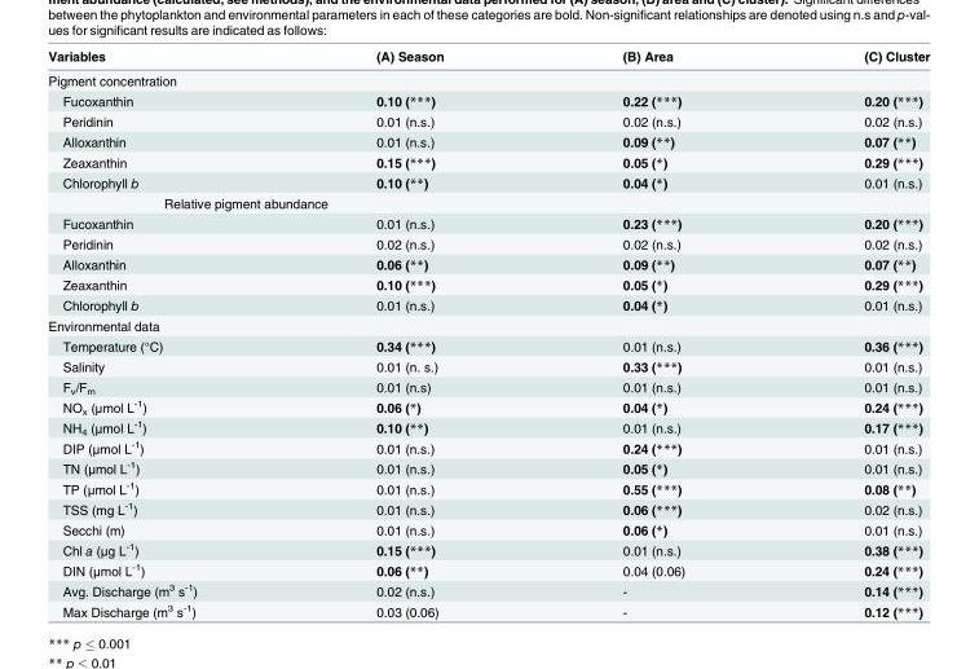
<table><thead><tr><td>Variables</td><td>(A) Season</td><td>(B) Area</td><td>(C) Cluster</td></tr></thead><tbody><tr><td colspan="4">Pigment concentration</td></tr><tr><td>Fucoxanthin</td><td>0.10 (***)</td><td>0.22 (***)</td><td>0.20 (***)</td></tr><tr><td>Peridinin</td><td>0.01 (n.s.)</td><td>0.02 (n.s.)</td><td>0.02 (n.s.)</td></tr><tr><td>Alloxanthin</td><td>0.01 (n.s.)</td><td>0.09 (**)</td><td>0.07 (**)</td></tr><tr><td>Zeaxanthin</td><td>0.15 (***)</td><td>0.05 (*)</td><td>0.29 (***)</td></tr><tr><td>Chlorophyll b</td><td>0.10 (**)</td><td>0.04 (*)</td><td>0.01 (n.s.)</td></tr><tr><td colspan="4">Relative pigment abundance</td></tr><tr><td>Fucoxanthin</td><td>0.01 (n.s.)</td><td>0.23 (***)</td><td>0.20 (***)</td></tr><tr><td>Peridinin</td><td>0.02 (n.s.)</td><td>0.02 (n.s.)</td><td>0.02 (n.s.)</td></tr><tr><td>Alloxanthin</td><td>0.06 (**)</td><td>0.09 (**)</td><td>0.07 (**)</td></tr><tr><td>Zeaxanthin</td><td>0.10 (***)</td><td>0.05 (*)</td><td>0.29 (***)</td></tr><tr><td>Chlorophyll b</td><td>0.01 (n.s.)</td><td>0.04 (*)</td><td>0.01 (n.s.)</td></tr><tr><td colspan="4">Environmental data</td></tr><tr><td>Temperature (°C)</td><td>0.34 (***)</td><td>0.01 (n.s.)</td><td>0.36 (***)</td></tr><tr><td>Salinity</td><td>0.01 (n. s.)</td><td>0.33 (***)</td><td>0.01 (n.s.)</td></tr><tr><td>F<sub>v</sub>/F<sub>m</sub></td><td>0.01 (n.s)</td><td>0.01 (n.s.)</td><td>0.01 (n.s.)</td></tr><tr><td>NO<sub>x</sub> (μmol L<sup>-1</sup>)</td><td>0.06 (*)</td><td>0.04 (*)</td><td>0.24 (***)</td></tr><tr><td>NH<sub>4</sub> (μmol L<sup>-1</sup>)</td><td>0.10 (**)</td><td>0.01 (n.s.)</td><td>0.17 (***)</td></tr><tr><td>DIP (µmol L<sup>-1</sup>)</td><td>0.01 (n.s.)</td><td>0.24 (***)</td><td>0.01 (n.s.)</td></tr><tr><td>TN (μmol L<sup>-1</sup>)</td><td>0.01 (n.s.)</td><td>0.05 (*)</td><td>0.01 (n.s.)</td></tr><tr><td>TP (μmol L<sup>-1</sup>)</td><td>0.01 (n.s.)</td><td>0.55 (***)</td><td>0.08 (**)</td></tr><tr><td>TSS (mg L<sup>-1</sup>)</td><td>0.01 (n.s.)</td><td>0.06 (***)</td><td>0.02 (n.s.)</td></tr><tr><td>Secchi (m)</td><td>0.01 (n.s.)</td><td>0.06 (*)</td><td>0.01 (n.s.)</td></tr><tr><td>Chl a (μg L<sup>-1</sup>)</td><td>0.15 (***)</td><td>0.01 (n.s.)</td><td>0.38 (***)</td></tr><tr><td>DIN (μmol L<sup>-1</sup>)</td><td>0.06 (**)</td><td>0.04 (0.06)</td><td>0.24 (***)</td></tr><tr><td>Avg. Discharge (m<sup>3</sup> s<sup>-1</sup>)</td><td>0.02 (n.s.)</td><td>-</td><td>0.14 (***)</td></tr><tr><td>Max Discharge (m<sup>3</sup> s<sup>-1</sup>)</td><td>0.03 (0.06)</td><td>-</td><td>0.12 (***)</td></tr></tbody></table>